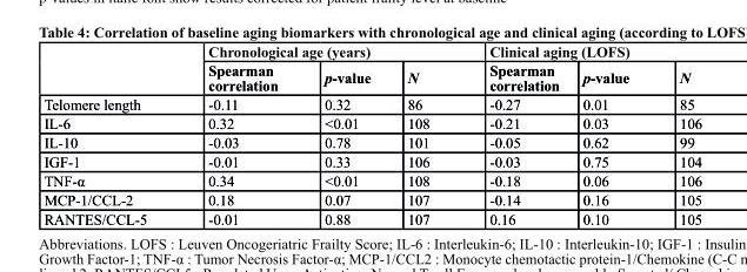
<table><thead><tr><td rowspan="2"></td><td colspan="3">chronological age (years)</td><td colspan="3">clinical aging (LOFs)</td></tr><tr><td>spearman correlation</td><td>p-value</td><td>N</td><td>spearman correlation</td><td>p-value</td><td>N</td></tr></thead><tbody><tr><td>Telomere length</td><td>-0.11</td><td>0.32</td><td>86</td><td>-0.27</td><td>0.01</td><td>85</td></tr><tr><td>IL-6</td><td>0.32</td><td>&lt;0.01</td><td>108</td><td>-0.21</td><td>0.03</td><td>106</td></tr><tr><td>IL-10</td><td>-0.03</td><td>0.78</td><td>101</td><td>-0.05</td><td>0.62</td><td>99</td></tr><tr><td>IGF-1</td><td>-0.01</td><td>0.33</td><td>106</td><td>-0.03</td><td>0.75</td><td>104</td></tr><tr><td>TNF-α</td><td>0.34</td><td>&lt;0.01</td><td>108</td><td>-0.18</td><td>0.06</td><td>106</td></tr><tr><td>MCP-1/CCL-2</td><td>0.18</td><td>0.07</td><td>107</td><td>-0.14</td><td>0.16</td><td>105</td></tr><tr><td>RANTES/CCL-5</td><td>-0.01</td><td>0.88</td><td>107</td><td>0.16</td><td>0.10</td><td>105</td></tr></tbody></table>